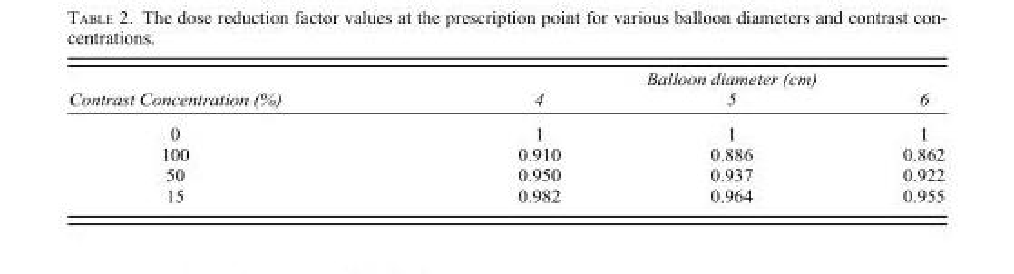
<table><thead><tr><td rowspan="2">Contrast Concentration (%)</td><td rowspan="2">4</td><td rowspan="2">Balloon diameter (cm) 5</td><td rowspan="2">6</td></tr><tr></tr></thead><tbody><tr><td>0</td><td>1</td><td>1</td><td>1</td></tr><tr><td>100</td><td>0.910</td><td>0.886</td><td>0.862</td></tr><tr><td>50</td><td>0.950</td><td>0.937</td><td>0.922</td></tr><tr><td>15</td><td>0.982</td><td>0.964</td><td>0.955</td></tr></tbody></table>